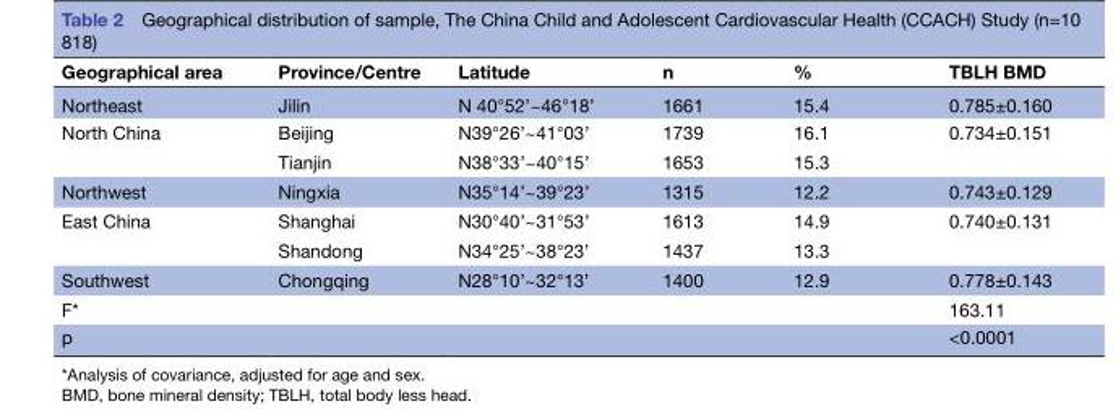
<table><thead><tr><td>Geographical area</td><td>Province/Centre</td><td>Latitude</td><td>n</td><td>%</td><td>TBLH BMD</td></tr></thead><tbody><tr><td>Northeast</td><td>Jilin</td><td>N 40°52’~46°18’</td><td>1661</td><td>15.4</td><td>0.785±0.160</td></tr><tr><td rowspan="2">North China</td><td>Beijing</td><td>N39°26’~41°03’</td><td>1739</td><td>16.1</td><td rowspan="2">0.734±0.151</td></tr><tr><td>Tianjin</td><td>N38°33’~40°15’</td><td>1653</td><td>15.3</td></tr><tr><td>Northwest</td><td>Ningxia</td><td>N35°14’~39°23’</td><td>1315</td><td>12.2</td><td>0.743±0.129</td></tr><tr><td rowspan="2">East China</td><td>Shanghai</td><td>N30°40’~31°53’</td><td>1613</td><td>14.9</td><td rowspan="2">0.740±0.131</td></tr><tr><td>Shandong</td><td>N34°25’~38°23’</td><td>1437</td><td>13.3</td></tr><tr><td>Southwest</td><td>Chongqing</td><td>N28°10’~32°13’</td><td>1400</td><td>12.9</td><td>0.778±0.143</td></tr><tr><td>F*</td><td></td><td></td><td></td><td></td><td>163.11</td></tr><tr><td>p</td><td></td><td></td><td></td><td></td><td>&lt;0.0001</td></tr></tbody></table>